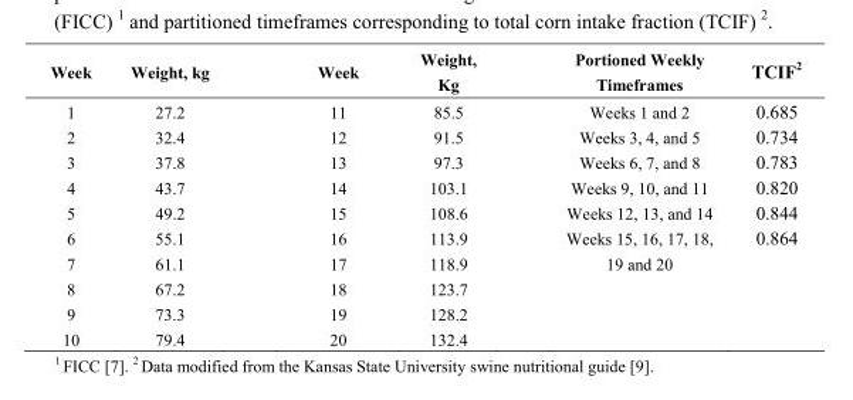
<table><thead><tr><td>Week</td><td>Weight, kg</td><td>Week</td><td>Weight, Kg</td><td>Portioned Weekly Timeframes</td><td>TCIF<sup>2</sup></td></tr></thead><tbody><tr><td>1</td><td>27.2</td><td>11</td><td>85.5</td><td>Weeks 1 and 2</td><td>0.685</td></tr><tr><td>2</td><td>32.4</td><td>12</td><td>91.5</td><td>Weeks 3, 4, and 5</td><td>0.734</td></tr><tr><td>3</td><td>37.8</td><td>13</td><td>97.3</td><td>Weeks 6, 7, and 8</td><td>0.783</td></tr><tr><td>4</td><td>43.7</td><td>14</td><td>103.1</td><td>Weeks 9, 10, and 11</td><td>0.820</td></tr><tr><td>5</td><td>49.2</td><td>15</td><td>108.6</td><td>Weeks 12, 13, and 14</td><td>0.844</td></tr><tr><td>6</td><td>55.1</td><td>16</td><td>113.9</td><td rowspan="5">Weeks 15, 16, 17, 18, 19 and 20</td><td rowspan="5">0.864</td></tr><tr><td>7</td><td>61.1</td><td>17</td><td>118.9</td></tr><tr><td>8</td><td>67.2</td><td>18</td><td>123.7</td></tr><tr><td>9</td><td>73.3</td><td>19</td><td>128.2</td></tr><tr><td>10</td><td>79.4</td><td>20</td><td>132.4</td></tr></tbody></table>